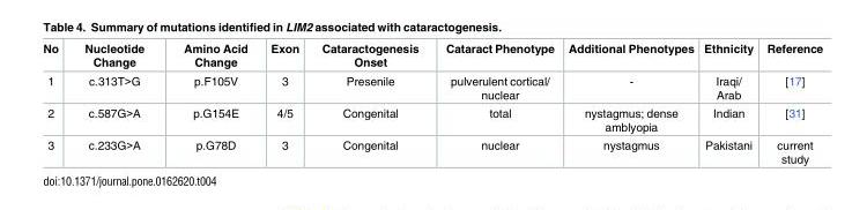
<table><thead><tr><td>No</td><td>Nucleotide Change</td><td>Amino Acid Change</td><td>Exon</td><td>Cataractogenesis Onset</td><td>Cataract Phenotype</td><td>Additional Phenotypes</td><td>Ethnicity</td><td>Reference</td></tr></thead><tbody><tr><td>1</td><td>c.313T&gt;G</td><td>p.F105V</td><td>3</td><td>Presenile</td><td>pulverulent cortical/ nuclear</td><td>-</td><td>Iraqi/ Arab</td><td>[17]</td></tr><tr><td>2</td><td>c.587G&gt;A</td><td>p.G154E</td><td>4/5</td><td>Congenital</td><td>total</td><td>nystagmus; dense amblyopia</td><td>Indian</td><td>[31]</td></tr><tr><td>3</td><td>c.233G&gt;A</td><td>p.G78D</td><td>3</td><td>Congenital</td><td>nuclear</td><td>nystagmus</td><td>Pakistani</td><td>current study</td></tr></tbody></table>